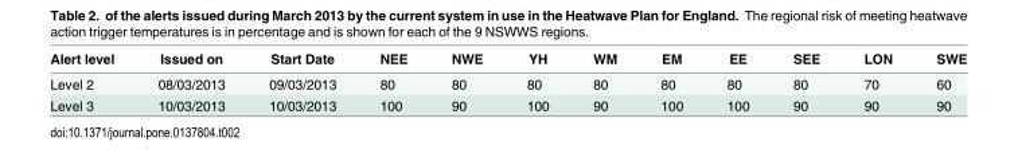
<table><thead><tr><td>Alert level</td><td>Issued on</td><td>Start Date</td><td>NEE</td><td>NWE</td><td>YH</td><td>WM</td><td>EM</td><td>EE</td><td>SEE</td><td>LON</td><td>SWE</td></tr></thead><tbody><tr><td>Level 2</td><td>08/03/2013</td><td>09/03/2013</td><td>80</td><td>80</td><td>80</td><td>80</td><td>80</td><td>80</td><td>80</td><td>70</td><td>60</td></tr><tr><td>Level 3</td><td>10/03/2013</td><td>10/03/2013</td><td>100</td><td>90</td><td>100</td><td>90</td><td>100</td><td>100</td><td>90</td><td>90</td><td>90</td></tr></tbody></table>